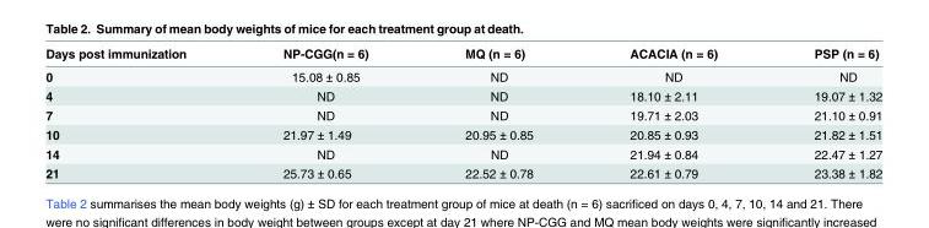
<table><thead><tr><td>Days post immunization</td><td>NP-CGG(n = 6)</td><td>MQ (n = 6)</td><td>ACACIA (n = 6)</td><td>PSP (n = 6)</td></tr></thead><tbody><tr><td>0</td><td>15.08 ± 0.85</td><td>ND</td><td>ND</td><td>ND</td></tr><tr><td>4</td><td>ND</td><td>ND</td><td>18.10 ± 2.11</td><td>19.07 ± 1.32</td></tr><tr><td>7</td><td>ND</td><td>ND</td><td>19.71 ± 2.03</td><td>21.10 ± 0.91</td></tr><tr><td>10</td><td>21.97 ± 1.49</td><td>20.95 ± 0.85</td><td>20.85 ± 0.93</td><td>21.82 ± 1.51</td></tr><tr><td>14</td><td>ND</td><td>ND</td><td>21.94 ± 0.84</td><td>22.47 ± 1.27</td></tr><tr><td>21</td><td>25.73 ± 0.65</td><td>22.52 ± 0.78</td><td>22.61 ± 0.79</td><td>23.38 ± 1.82</td></tr></tbody></table>